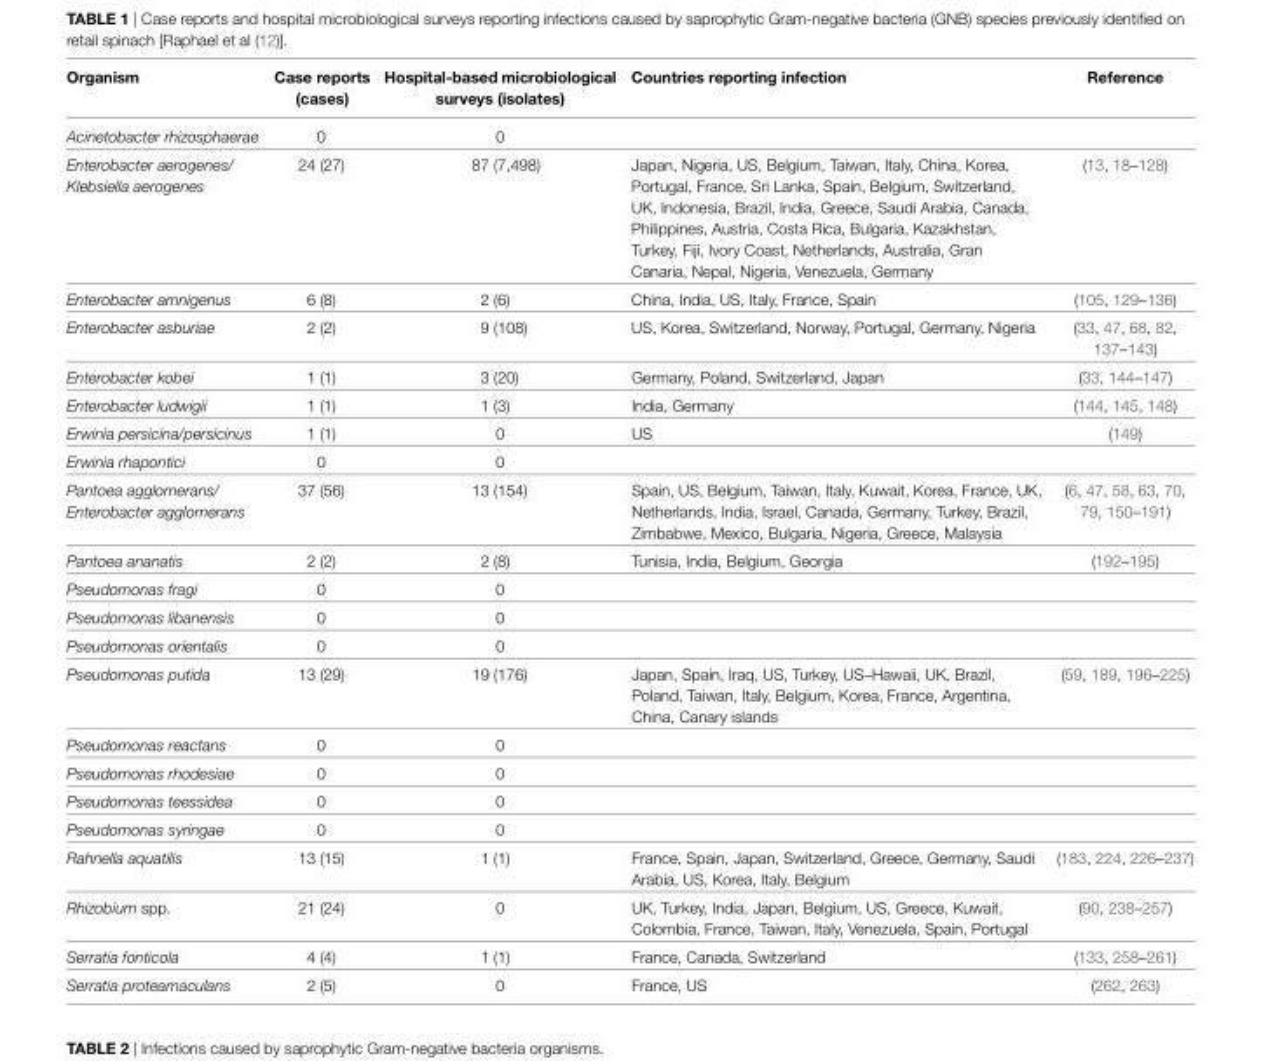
<table><thead><tr><td>Organism</td><td>case reports (cases)</td><td>Hospital-based microbiological surveys (isolates)</td><td>countries reporting infection</td><td>Reference</td></tr></thead><tbody><tr><td>Acinetobacter rhizosphaerae</td><td>0</td><td>0</td><td></td><td></td></tr><tr><td>Enterobacter aerogenes/ Klebsiella aerogenes</td><td>24 (27)</td><td>87 (7,498)</td><td>Japan, Nigeria, US, Belgium, Taiwan, Italy, China, Korea, Portugal, France, Sri Lanka, Spain, Belgium, Switzerland, UK, Indonesia, Brazil, India, Greece, Saudi Arabia, Canada, Philippines, Austria, Costa Rica, Bulgaria, Kazakhstan, Turkey, Fiji, Ivory Coast, Netherlands, Australia, Gran Canaria, Nepal, Nigeria, Venezuela, Germany</td><td>(13, 18–128)</td></tr><tr><td>Enterobacter amnigenus</td><td>6 (8)</td><td>2 (6)</td><td>China, India, US, Italy, France, Spain</td><td>(105, 129–136)</td></tr><tr><td>Enterobacter asburiae</td><td>2 (2)</td><td>9 (108)</td><td>US, Korea, Switzerland, Norway, Portugal, Germany, Nigeria</td><td>(33, 47, 68, 82, 137–143)</td></tr><tr><td>Enterobacter kobei</td><td>1 (1)</td><td>3 (20)</td><td>Germany, Poland, Switzerland, Japan</td><td>(33, 144–147)</td></tr><tr><td>Enterobacter ludwigii</td><td>1 (1)</td><td>1 (3)</td><td>India, Germany</td><td>(144, 145, 148)</td></tr><tr><td>Erwinia persicina/persicinus</td><td>1 (1)</td><td>0</td><td>US</td><td>(149)</td></tr><tr><td>Erwinia rhapontici</td><td>0</td><td>0</td><td></td><td></td></tr><tr><td>Pantoea agglomerans/ Enterobacter agglomerans</td><td>37 (56)</td><td>13 (154)</td><td>Spain, US, Belgium, Taiwan, Italy, Kuwait, Korea, France, UK, Netherlands, India, Israel, Canada, Germany, Turkey, Brazil, Zimbabwe, Mexico, Bulgaria, Nigeria, Greece, Malaysia</td><td>(6, 47, 58, 63, 70, 79, 150–191)</td></tr><tr><td>Pantoea ananatis</td><td>2 (2)</td><td>2 (8)</td><td>Tunisia, India, Belgium, Georgia</td><td>(192–195)</td></tr><tr><td>Pseudomonas fragi</td><td>0</td><td>0</td><td></td><td></td></tr><tr><td>Pseudomonas libanensis</td><td>0</td><td>0</td><td></td><td></td></tr><tr><td>Pseudomonas orientalis</td><td>0</td><td>0</td><td></td><td></td></tr><tr><td>Pseudomonas putida</td><td>13 (29)</td><td>19 (176)</td><td>Japan, Spain, Iraq, US, Turkey, US–Hawaii, UK, Brazil, Poland, Taiwan, Italy, Belgium, Korea, France, Argentina, China, Canary islands</td><td>(59, 189, 196–225)</td></tr><tr><td>Pseudomonas reactans</td><td>0</td><td>0</td><td></td><td></td></tr><tr><td>Pseudomonas rhodesiae</td><td>0</td><td>0</td><td></td><td></td></tr><tr><td>Pseudomonas teessidea</td><td>0</td><td>0</td><td></td><td></td></tr><tr><td>Pseudomonas syringae</td><td>0</td><td>0</td><td></td><td></td></tr><tr><td>Rahnella aquatilis</td><td>13 (15)</td><td>1 (1)</td><td>France, Spain, Japan, Switzerland, Greece, Germany, Saudi Arabia, US, Korea, Italy, Belgium</td><td>(183, 224, 226–237)</td></tr><tr><td>Rhizobium spp.</td><td>21 (24)</td><td>0</td><td>UK, Turkey, India, Japan, Belgium, US, Greece, Kuwait, Colombia, France, Taiwan, Italy, Venezuela, Spain, Portugal</td><td>(90, 238–257)</td></tr><tr><td>Serratia fonticola</td><td>4 (4)</td><td>1 (1)</td><td>France, Canada, Switzerland</td><td>(133, 258–261)</td></tr><tr><td>Serratia proteamaculans</td><td>2 (5)</td><td>0</td><td>France, US</td><td>(262, 263)</td></tr></tbody></table>